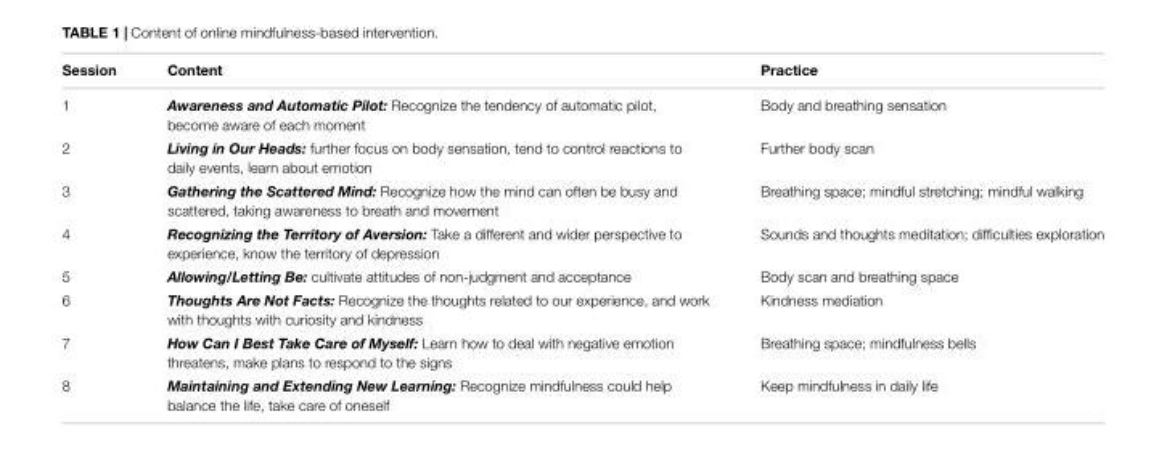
<table><thead><tr><td>Session</td><td>Content</td><td>Practice</td></tr></thead><tbody><tr><td>1</td><td>Awareness and Automatic Pilot: Recognize the tendency of automatic pilot, become aware of each moment</td><td>Body and breathing sensation</td></tr><tr><td>2</td><td>Living in Our Heads: further focus on body sensation, tend to control reactions to daily events, learn about emotion</td><td>Further body scan</td></tr><tr><td>3</td><td>Gathering the Scattered Mind: Recognize how the mind can often be busy and scattered, taking awareness to breath and movement</td><td>Breathing space; mindful stretching; mindful walking</td></tr><tr><td>4</td><td>Recognizing the Territory of Aversion: Take a different and wider perspective to experience, know the territory of depression</td><td>Sounds and thoughts meditation; difficulties exploration</td></tr><tr><td>5</td><td>Allowing/Letting Be: cultivate attitudes of non-judgment and acceptance</td><td>Body scan and breathing space</td></tr><tr><td>6</td><td>Thoughts Are Not Facts: Recognize the thoughts related to our experience, and work with thoughts with curiosity and kindness</td><td>Kindness mediation</td></tr><tr><td>7</td><td>How Can I Best Take Care of Myself: Learn how to deal with negative emotion threatens, make plans to respond to the signs</td><td>Breathing space; mindfulness bells</td></tr><tr><td>8</td><td>Maintaining and Extending New Learning: Recognize mindfulness could help balance the life, take care of oneself</td><td>Keep mindfulness in daily life</td></tr></tbody></table>